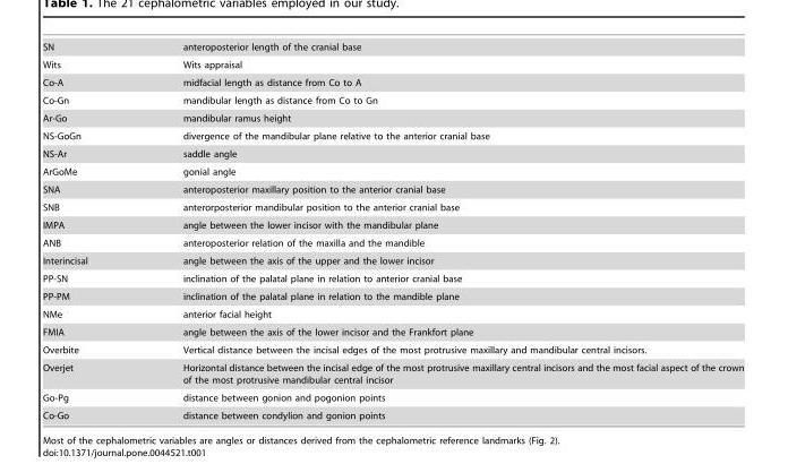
<table><tbody><tr><td>SN</td><td>anteroposterior length of the cranial base</td></tr><tr><td>Wits</td><td>Wits appraisal</td></tr><tr><td>Co-A</td><td>midfacial length as distance from Co to A</td></tr><tr><td>Co-Gn</td><td>mandibular length as distance from Co to Gn</td></tr><tr><td>Ar-Go</td><td>mandibular ramus height</td></tr><tr><td>NS-GoGn</td><td>divergence of the mandibular plane relative to the anterior cranial base</td></tr><tr><td>NS-Ar</td><td>saddle angle</td></tr><tr><td>ArGoMe</td><td>gonial angle</td></tr><tr><td>SNA</td><td>anteroposterior maxillary position to the anterior cranial base</td></tr><tr><td>SNB</td><td>anterorposterior mandibular position to the anterior cranial base</td></tr><tr><td>IMPA</td><td>angle between the lower incisor with the mandibular plane</td></tr><tr><td>ANB</td><td>anteroposterior relation of the maxilla and the mandible</td></tr><tr><td>Interincisal</td><td>angle between the axis of the upper and the lower incisor</td></tr><tr><td>PP-SN</td><td>inclination of the palatal plane in relation to anterior cranial base</td></tr><tr><td>PP-PM</td><td>inclination of the palatal plane in relation to the mandible plane</td></tr><tr><td>NMe</td><td>anterior facial height</td></tr><tr><td>FMIA</td><td>angle between the axis of the lower incisor and the Frankfort plane</td></tr><tr><td>Overbite</td><td>Vertical distance between the incisal edges of the most protrusive maxillary and mandibular central incisors.</td></tr><tr><td>Overjet</td><td>Horizontal distance between the incisal edge of the most protrusive maxillary central incisors and the most facial aspect of the crown of the most protrusive mandibular central incisor</td></tr><tr><td>Go-Pg</td><td>distance between gonion and pogonion points</td></tr><tr><td>Co-Go</td><td>distance between condylion and gonion points</td></tr></tbody></table>